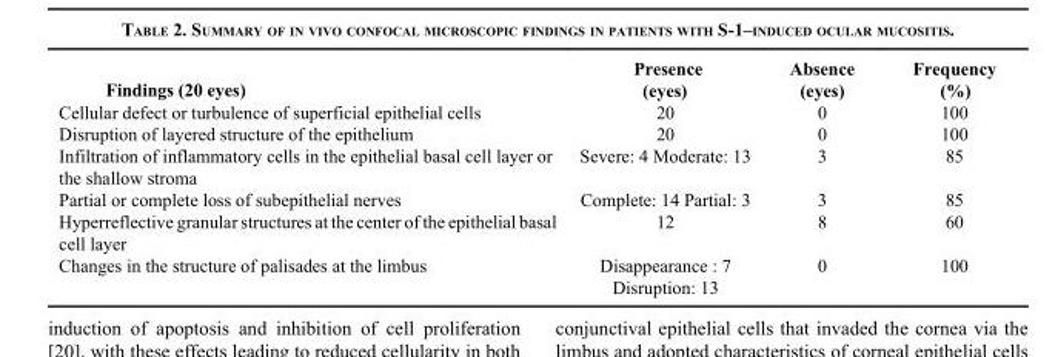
<table><thead><tr><td>Findings (20 eyes)</td><td>Presence (eyes)</td><td>Absence (eyes)</td><td>Frequency (%)</td></tr></thead><tbody><tr><td>Cellular defect or turbulence of superficial epithelial cells</td><td>20</td><td>0</td><td>100</td></tr><tr><td>Disruption of layered structure of the epithelium</td><td>20</td><td>0</td><td>100</td></tr><tr><td>Infiltration of inflammatory cells in the epithelial basal cell layer or the shallow stroma</td><td>Severe: 4 Moderate: 13</td><td>3</td><td>85</td></tr><tr><td>Partial or complete loss of subepithelial nerves</td><td>Complete: 14 Partial: 3</td><td>3</td><td>85</td></tr><tr><td>Hyperreflective granular structures at the center of the epithelial basal cell layer</td><td>12</td><td>8</td><td>60</td></tr><tr><td>Changes in the structure of palisades at the limbus</td><td>Disappearance : 7 Disruption: 13</td><td>0</td><td>100</td></tr></tbody></table>